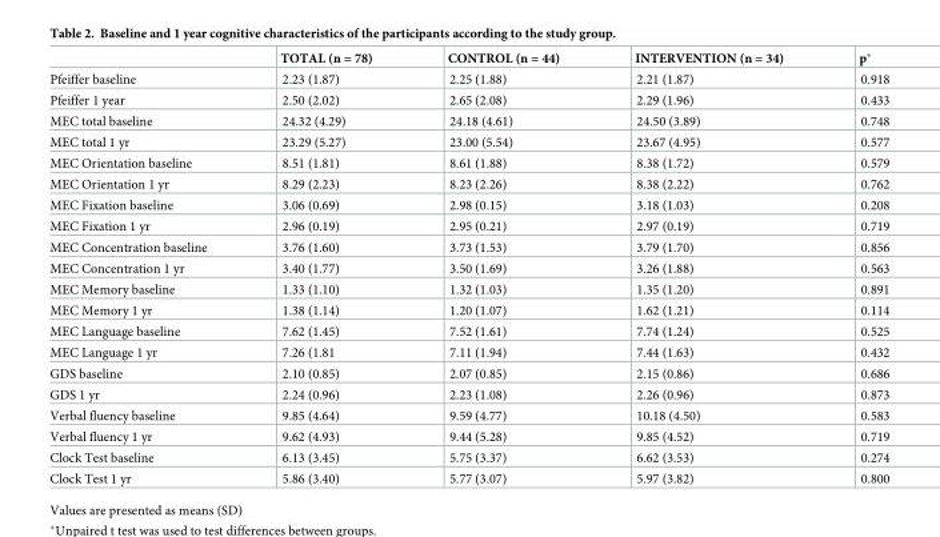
<table><thead><tr><td></td><td>TOTAL (n = 78)</td><td>CONTROL (n = 44)</td><td>INTERVENTION (n = 34)</td><td>p*</td></tr></thead><tbody><tr><td>Pfeiffer baseline</td><td>2.23 (1.87)</td><td>2.25 (1.88)</td><td>2.21 (1.87)</td><td>0.918</td></tr><tr><td>Pfeiffer 1 year</td><td>2.50 (2.02)</td><td>2.65 (2.08)</td><td>2.29 (1.96)</td><td>0.433</td></tr><tr><td>MEC total baseline</td><td>24.32 (4.29)</td><td>24.18 (4.61)</td><td>24.50 (3.89)</td><td>0.748</td></tr><tr><td>MEC total 1 yr</td><td>23.29 (5.27)</td><td>23.00 (5.54)</td><td>23.67 (4.95)</td><td>0.577</td></tr><tr><td>MEC Orientation baseline</td><td>8.51 (1.81)</td><td>8.61 (1.88)</td><td>8.38 (1.72)</td><td>0.579</td></tr><tr><td>MEC Orientation 1 yr</td><td>8.29 (2.23)</td><td>8.23 (2.26)</td><td>8.38 (2.22)</td><td>0.762</td></tr><tr><td>MEC Fixation baseline</td><td>3.06 (0.69)</td><td>2.98 (0.15)</td><td>3.18 (1.03)</td><td>0.208</td></tr><tr><td>MEC Fixation 1 yr</td><td>2.96 (0.19)</td><td>2.95 (0.21)</td><td>2.97 (0.19)</td><td>0.719</td></tr><tr><td>MEC Concentration baseline</td><td>3.76 (1.60)</td><td>3.73 (1.53)</td><td>3.79 (1.70)</td><td>0.856</td></tr><tr><td>MEC Concentration 1 yr</td><td>3.40 (1.77)</td><td>3.50 (1.69)</td><td>3.26 (1.88)</td><td>0.563</td></tr><tr><td>MEC Memory baseline</td><td>1.33 (1.10)</td><td>1.32 (1.03)</td><td>1.35 (1.20)</td><td>0.891</td></tr><tr><td>MEC Memory 1 yr</td><td>1.38 (1.14)</td><td>1.20 (1.07)</td><td>1.62 (1.21)</td><td>0.114</td></tr><tr><td>MEC Language baseline</td><td>7.62 (1.45)</td><td>7.52 (1.61)</td><td>7.74 (1.24)</td><td>0.525</td></tr><tr><td>MEC Language 1 yr</td><td>7.26 (1.81</td><td>7.11 (1.94)</td><td>7.44 (1.63)</td><td>0.432</td></tr><tr><td>GDS baseline</td><td>2.10 (0.85)</td><td>2.07 (0.85)</td><td>2.15 (0.86)</td><td>0.686</td></tr><tr><td>GDS 1 yr</td><td>2.24 (0.96)</td><td>2.23 (1.08)</td><td>2.26 (0.96)</td><td>0.873</td></tr><tr><td>Verbal fluency baseline</td><td>9.85 (4.64)</td><td>9.59 (4.77)</td><td>10.18 (4.50)</td><td>0.583</td></tr><tr><td>Verbal fluency 1 yr</td><td>9.62 (4.93)</td><td>9.44 (5.28)</td><td>9.85 (4.52)</td><td>0.719</td></tr><tr><td>Clock Test baseline</td><td>6.13 (3.45)</td><td>5.75 (3.37)</td><td>6.62 (3.53)</td><td>0.274</td></tr><tr><td>Clock Test 1 yr</td><td>5.86 (3.40)</td><td>5.77 (3.07)</td><td>5.97 (3.82)</td><td>0.800</td></tr></tbody></table>